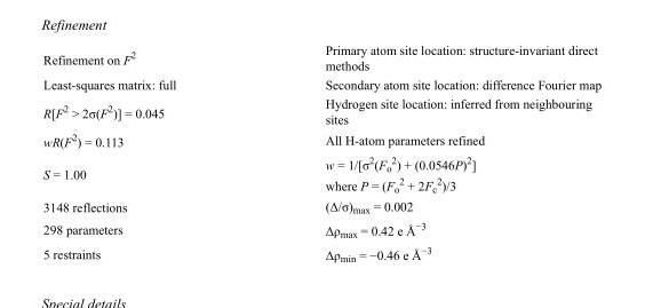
<table><tbody><tr><td>Refinement on F<sup>2</sup></td><td>Primary atom site location: structure-invariant direct methods</td></tr><tr><td>Least-squares matrix: full</td><td>Secondary atom site location: difference Fourier map</td></tr><tr><td>R[F<sup>2</sup> &gt; 2σ(F<sup>2</sup>)] = 0.045</td><td>Hydrogen site location: inferred from neighbouring sites</td></tr><tr><td>wR(F<sup>2</sup>) = 0.113</td><td>All H-atom parameters refined</td></tr><tr><td>S = 1.00</td><td>w = 1/[σ<sup>2</sup>(F<sub>o</sub> <sup>2</sup>) + (0.0546P)<sup>2</sup>] where P = (F<sub>o</sub> <sup>2</sup> + 2F<sub>c</sub> <sup>2</sup>)/3</td></tr><tr><td>3148 reflections</td><td>(Δ/σ)<sub>max</sub> = 0.002</td></tr><tr><td>298 parameters</td><td>Δρ<sub>max</sub> = 0.42 e Å<sup>−3</sup></td></tr><tr><td>5 restraints</td><td>Δρ<sub>min</sub> = −0.46 e Å<sup>−3</sup></td></tr></tbody></table>